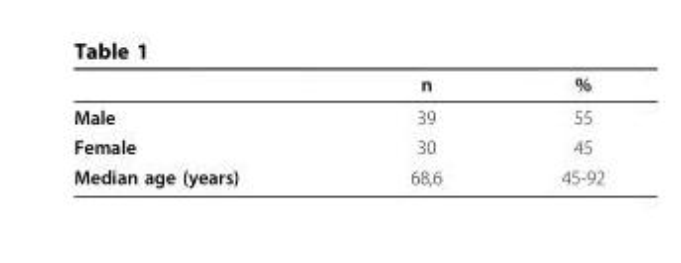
<table><thead><tr><td></td><td>n</td><td>%</td></tr></thead><tbody><tr><td>Male</td><td>39</td><td>55</td></tr><tr><td>Female</td><td>30</td><td>45</td></tr><tr><td>Median age (years)</td><td>68,6</td><td>45-92</td></tr></tbody></table>